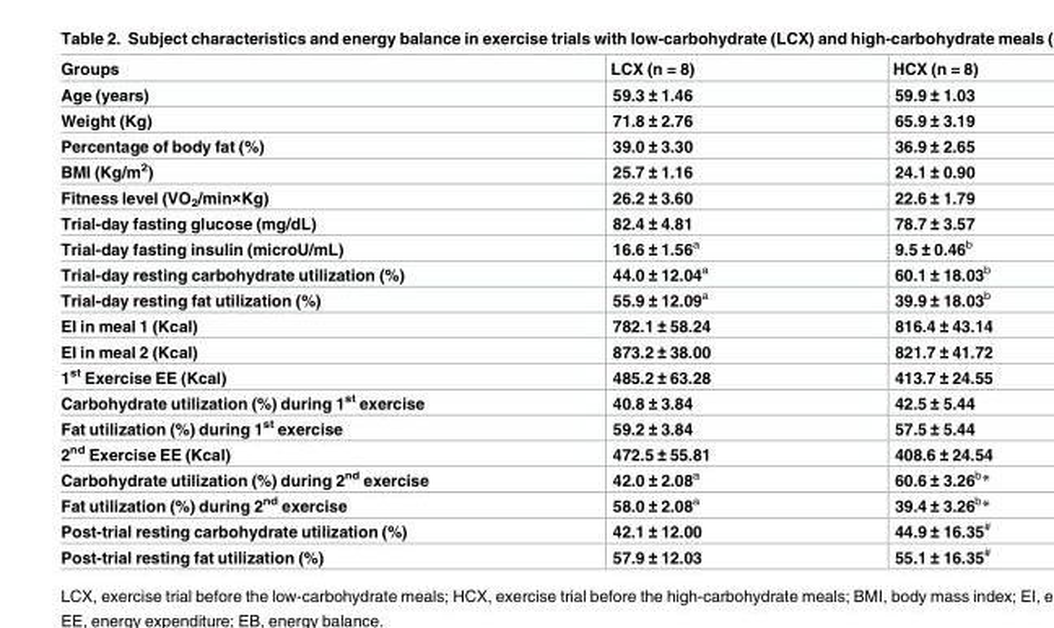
<table><thead><tr><td>Groups</td><td>LCX (n = 8)</td><td>HCX (n = 8)</td></tr></thead><tbody><tr><td>Age (years)</td><td>59.3 ± 1.46</td><td>59.9 ± 1.03</td></tr><tr><td>Weight (Kg)</td><td>71.8 ± 2.76</td><td>65.9 ± 3.19</td></tr><tr><td>Percentage of body fat (%)</td><td>39.0 ± 3.30</td><td>36.9 ± 2.65</td></tr><tr><td>BMI (Kg/m<sup>2</sup>)</td><td>25.7 ± 1.16</td><td>24.1 ± 0.90</td></tr><tr><td>Fitness level (VO<sub>2</sub>/min×Kg)</td><td>26.2 ± 3.60</td><td>22.6 ± 1.79</td></tr><tr><td>Trial-day fasting glucose (mg/dL)</td><td>82.4 ± 4.81</td><td>78.7 ± 3.57</td></tr><tr><td>Trial-day fasting insulin (microU/mL)</td><td>16.6 ± 1.56<sup>a</sup></td><td>9.5 ± 0.46<sup>b</sup></td></tr><tr><td>Trial-day resting carbohydrate utilization (%)</td><td>44.0 ± 12.04<sup>a</sup></td><td>60.1 ± 18.03<sup>b</sup></td></tr><tr><td>Trial-day resting fat utilization (%)</td><td>55.9 ± 12.09<sup>a</sup></td><td>39.9 ± 18.03<sup>b</sup></td></tr><tr><td>EI in meal 1 (Kcal)</td><td>782.1 ± 58.24</td><td>816.4 ± 43.14</td></tr><tr><td>EI in meal 2 (Kcal)</td><td>873.2 ± 38.00</td><td>821.7 ± 41.72</td></tr><tr><td>1<sup>st</sup> Exercise EE (Kcal)</td><td>485.2 ± 63.28</td><td>413.7 ± 24.55</td></tr><tr><td>Carbohydrate utilization (%) during 1<sup>st</sup> exercise</td><td>40.8 ± 3.84</td><td>42.5 ± 5.44</td></tr><tr><td>Fat utilization (%) during 1<sup>st</sup> exercise</td><td>59.2 ± 3.84</td><td>57.5 ± 5.44</td></tr><tr><td>2<sup>nd</sup> Exercise EE (Kcal)</td><td>472.5 ± 55.81</td><td>408.6 ± 24.54</td></tr><tr><td>Carbohydrate utilization (%) during 2<sup>nd</sup> exercise</td><td>42.0 ± 2.08<sup>a</sup></td><td>60.6 ± 3.26<sup>b</sup>*</td></tr><tr><td>Fat utilization (%) during 2<sup>nd</sup> exercise</td><td>58.0 ± 2.08<sup>a</sup></td><td>39.4 ± 3.26<sup>b</sup>*</td></tr><tr><td>Post-trial resting carbohydrate utilization (%)</td><td>42.1 ± 12.00</td><td>44.9 ± 16.35<sup>#</sup></td></tr><tr><td>Post-trial resting fat utilization (%)</td><td>57.9 ± 12.03</td><td>55.1 ± 16.35<sup>#</sup></td></tr></tbody></table>